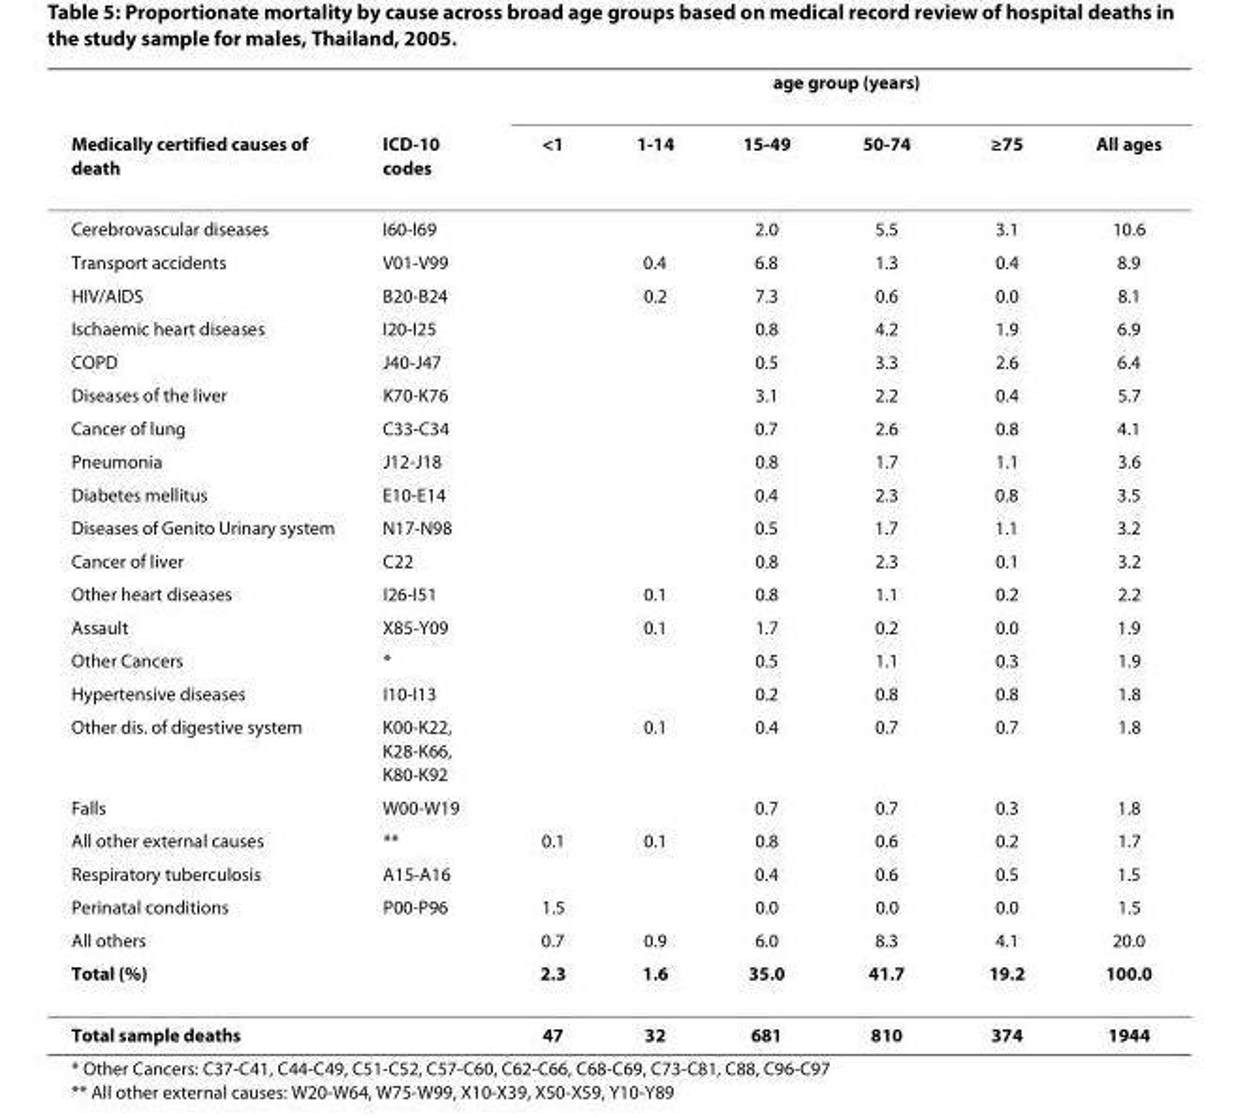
<table><thead><tr><td rowspan="2">Medically certified causes of death</td><td rowspan="2">ICD-10 codes</td><td colspan="6">age group (years)</td></tr><tr><td>&lt;1</td><td>1-14</td><td>15-49</td><td>50-74</td><td>≥75</td><td>All ages</td></tr></thead><tbody><tr><td>Cerebrovascular diseases</td><td>I60-I69</td><td></td><td></td><td>2.0</td><td>5.5</td><td>3.1</td><td>10.6</td></tr><tr><td>Transport accidents</td><td>V01-V99</td><td></td><td>0.4</td><td>6.8</td><td>1.3</td><td>0.4</td><td>8.9</td></tr><tr><td>HIV/AIDS</td><td>B20-B24</td><td></td><td>0.2</td><td>7.3</td><td>0.6</td><td>0.0</td><td>8.1</td></tr><tr><td>Ischaemic heart diseases</td><td>I20-I25</td><td></td><td></td><td>0.8</td><td>4.2</td><td>1.9</td><td>6.9</td></tr><tr><td>COPD</td><td>J40-J47</td><td></td><td></td><td>0.5</td><td>3.3</td><td>2.6</td><td>6.4</td></tr><tr><td>Diseases of the liver</td><td>K70-K76</td><td></td><td></td><td>3.1</td><td>2.2</td><td>0.4</td><td>5.7</td></tr><tr><td>Cancer of lung</td><td>C33-C34</td><td></td><td></td><td>0.7</td><td>2.6</td><td>0.8</td><td>4.1</td></tr><tr><td>Pneumonia</td><td>J12-J18</td><td></td><td></td><td>0.8</td><td>1.7</td><td>1.1</td><td>3.6</td></tr><tr><td>Diabetes mellitus</td><td>E10-E14</td><td></td><td></td><td>0.4</td><td>2.3</td><td>0.8</td><td>3.5</td></tr><tr><td>Diseases of Genito Urinary system</td><td>N17-N98</td><td></td><td></td><td>0.5</td><td>1.7</td><td>1.1</td><td>3.2</td></tr><tr><td>Cancer of liver</td><td>C22</td><td></td><td></td><td>0.8</td><td>2.3</td><td>0.1</td><td>3.2</td></tr><tr><td>Other heart diseases</td><td>I26-I51</td><td></td><td>0.1</td><td>0.8</td><td>1.1</td><td>0.2</td><td>2.2</td></tr><tr><td>Assault</td><td>X85-Y09</td><td></td><td>0.1</td><td>1.7</td><td>0.2</td><td>0.0</td><td>1.9</td></tr><tr><td>Other Cancers</td><td>*</td><td></td><td></td><td>0.5</td><td>1.1</td><td>0.3</td><td>1.9</td></tr><tr><td>Hypertensive diseases</td><td>I10-I13</td><td></td><td></td><td>0.2</td><td>0.8</td><td>0.8</td><td>1.8</td></tr><tr><td>Other dis. of digestive system</td><td>K00-K22, K28-K66, K80-K92</td><td></td><td>0.1</td><td>0.4</td><td>0.7</td><td>0.7</td><td>1.8</td></tr><tr><td>Falls</td><td>W00-W19</td><td></td><td></td><td>0.7</td><td>0.7</td><td>0.3</td><td>1.8</td></tr><tr><td>All other external causes</td><td>**</td><td>0.1</td><td>0.1</td><td>0.8</td><td>0.6</td><td>0.2</td><td>1.7</td></tr><tr><td>Respiratory tuberculosis</td><td>A15-A16</td><td></td><td></td><td>0.4</td><td>0.6</td><td>0.5</td><td>1.5</td></tr><tr><td>Perinatal conditions</td><td>P00-P96</td><td>1.5</td><td></td><td>0.0</td><td>0.0</td><td>0.0</td><td>1.5</td></tr><tr><td>All others</td><td></td><td>0.7</td><td>0.9</td><td>6.0</td><td>8.3</td><td>4.1</td><td>20.0</td></tr><tr><td>Total (%)</td><td></td><td>2.3</td><td>1.6</td><td>35.0</td><td>41.7</td><td>19.2</td><td>100.0</td></tr><tr><td>Total sample deaths</td><td></td><td>47</td><td>32</td><td>681</td><td>810</td><td>374</td><td>1944</td></tr></tbody></table>